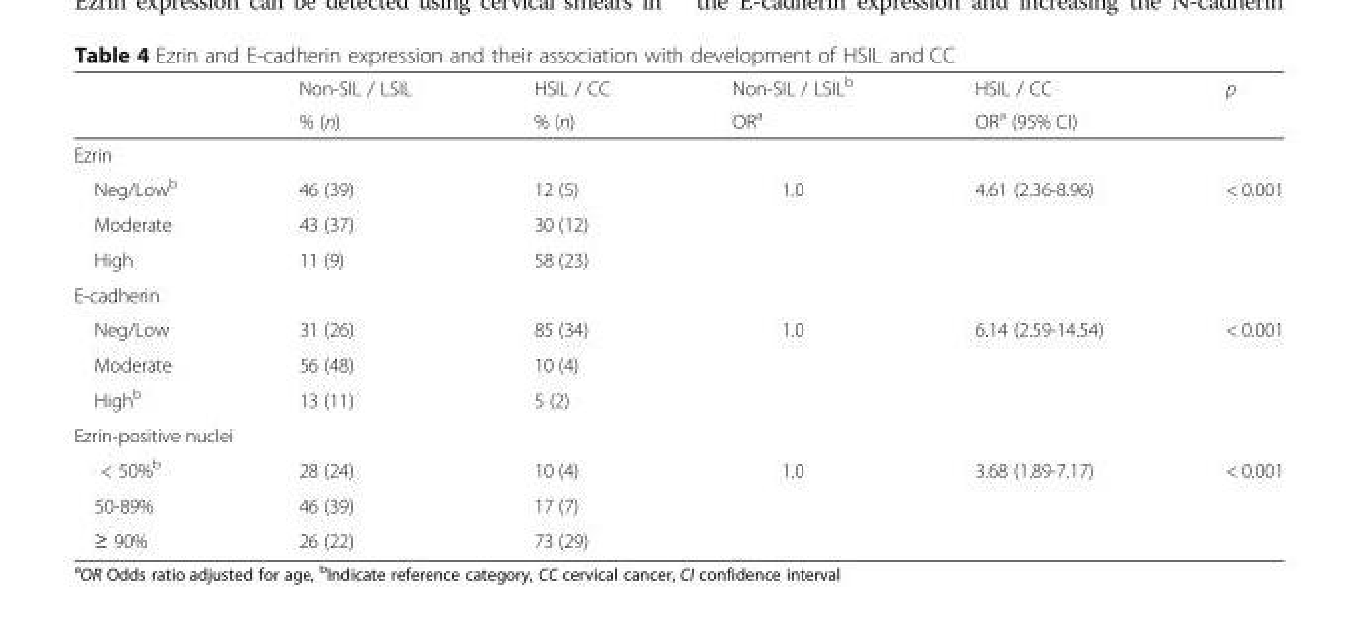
<table><thead><tr><td rowspan="2"></td><td rowspan="2">Non-SIL / LSIL % (n)</td><td rowspan="2">HSIL / CC % (n)</td><td rowspan="2">Non-SIL / LSIL<sup>b</sup> OR<sup>a</sup></td><td rowspan="2">HSIL / CC OR<sup>a</sup> (95% CI)</td><td rowspan="2">p</td></tr><tr></tr></thead><tbody><tr><td colspan="6">Ezrin</td></tr><tr><td>Neg/Low<sup>b</sup></td><td>46 (39)</td><td>12 (5)</td><td rowspan="3">1.0</td><td rowspan="3">4.61 (2.36-8.96)</td><td rowspan="3">&lt; 0.001</td></tr><tr><td>Moderate</td><td>43 (37)</td><td>30 (12)</td></tr><tr><td>High</td><td>11 (9)</td><td>58 (23)</td></tr><tr><td colspan="6">E-cadherin</td></tr><tr><td>Neg/Low</td><td>31 (26)</td><td>85 (34)</td><td rowspan="3">1.0</td><td rowspan="3">6.14 (2.59-14.54)</td><td rowspan="3">&lt; 0.001</td></tr><tr><td>Moderate</td><td>56 (48)</td><td>10 (4)</td></tr><tr><td>High<sup>b</sup></td><td>13 (11)</td><td>5 (2)</td></tr><tr><td colspan="6">Ezrin-positive nuclei</td></tr><tr><td>&lt; 50%<sup>b</sup></td><td>28 (24)</td><td>10 (4)</td><td rowspan="3">1.0</td><td rowspan="3">3.68 (1.89-7.17)</td><td rowspan="3">&lt; 0.001</td></tr><tr><td>50-89%</td><td>46 (39)</td><td>17 (7)</td></tr><tr><td>≥ 90%</td><td>26 (22)</td><td>73 (29)</td></tr></tbody></table>